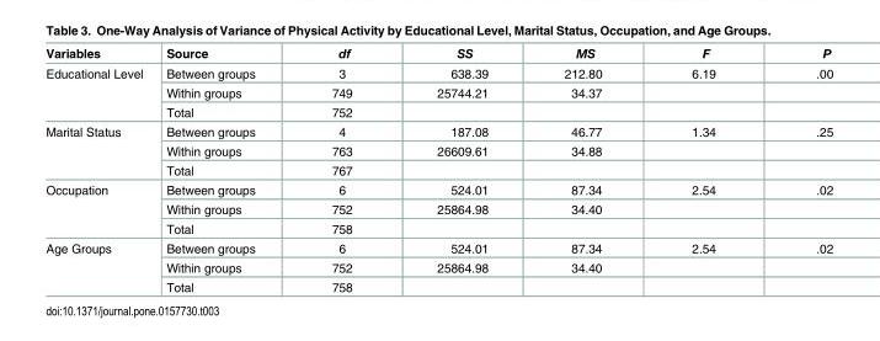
<table><thead><tr><td>Variables</td><td>Source</td><td>df</td><td>SS</td><td>MS</td><td>F</td><td>P</td></tr></thead><tbody><tr><td rowspan="3">Educational Level</td><td>Between groups</td><td>3</td><td>638.39</td><td>212.80</td><td>6.19</td><td>.00</td></tr><tr><td>Within groups</td><td>749</td><td>25744.21</td><td>34.37</td><td></td><td></td></tr><tr><td>Total</td><td>752</td><td></td><td></td><td></td><td></td></tr><tr><td rowspan="3">Marital Status</td><td>Between groups</td><td>4</td><td>187.08</td><td>46.77</td><td>1.34</td><td>.25</td></tr><tr><td>Within groups</td><td>763</td><td>26609.61</td><td>34.88</td><td></td><td></td></tr><tr><td>Total</td><td>767</td><td></td><td></td><td></td><td></td></tr><tr><td rowspan="3">Occupation</td><td>Between groups</td><td>6</td><td>524.01</td><td>87.34</td><td>2.54</td><td>.02</td></tr><tr><td>Within groups</td><td>752</td><td>25864.98</td><td>34.40</td><td></td><td></td></tr><tr><td>Total</td><td>758</td><td></td><td></td><td></td><td></td></tr><tr><td rowspan="3">Age Groups</td><td>Between groups</td><td>6</td><td>524.01</td><td>87.34</td><td>2.54</td><td>.02</td></tr><tr><td>Within groups</td><td>752</td><td>25864.98</td><td>34.40</td><td></td><td></td></tr><tr><td>Total</td><td>758</td><td></td><td></td><td></td><td></td></tr></tbody></table>